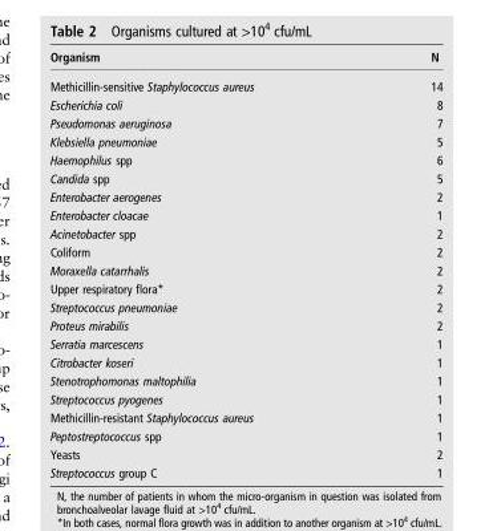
<table><thead><tr><td>Organism</td><td>N</td></tr></thead><tbody><tr><td>Methicillin-sensitive Staphylococcus aureus</td><td>14</td></tr><tr><td>Escherichia coli</td><td>8</td></tr><tr><td>Pseudomonas aeruginosa</td><td>7</td></tr><tr><td>Klebsiella pneumoniae</td><td>5</td></tr><tr><td>Haemophilus spp</td><td>6</td></tr><tr><td>Candida spp</td><td>5</td></tr><tr><td>Enterobacter aerogenes</td><td>2</td></tr><tr><td>Enterobacter cloacae</td><td>1</td></tr><tr><td>Acinetobacter spp</td><td>2</td></tr><tr><td>Coliform</td><td>2</td></tr><tr><td>Moraxella catarrhalis</td><td>2</td></tr><tr><td>Upper respiratory flora*</td><td>2</td></tr><tr><td>Streptococcus pneumoniae</td><td>2</td></tr><tr><td>Proteus mirabilis</td><td>2</td></tr><tr><td>Serratia marcescens</td><td>1</td></tr><tr><td>Citrobacter koseri</td><td>1</td></tr><tr><td>Stenotrophomonas maltophilia</td><td>1</td></tr><tr><td>Streptococcus pyogenes</td><td>1</td></tr><tr><td>Methicillin-resistant Staphylococcus aureus</td><td>1</td></tr><tr><td>Peptostreptococcus spp</td><td>1</td></tr><tr><td>Yeasts</td><td>2</td></tr><tr><td>Streptococcus group C</td><td>1</td></tr></tbody></table>